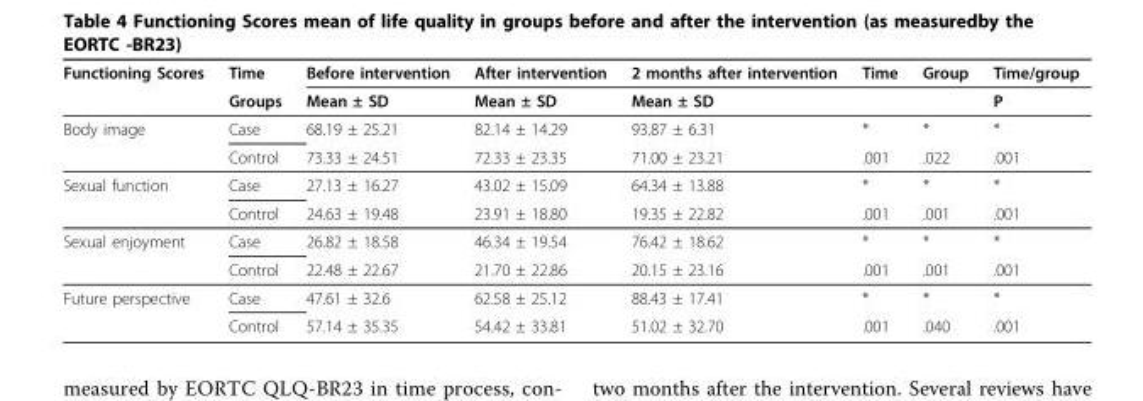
<table><thead><tr><td rowspan="2">Functioning Scores</td><td rowspan="2">Time Groups</td><td rowspan="2">Before intervention Mean ± SD</td><td rowspan="2">After intervention Mean ± SD</td><td rowspan="2">2 months after intervention Mean ± SD</td><td rowspan="2">Time</td><td rowspan="2">Group</td><td rowspan="2">Time/group P</td></tr><tr></tr></thead><tbody><tr><td rowspan="2">Body image</td><td>Case</td><td>68.19 ± 25.21</td><td>82.14 ± 14.29</td><td>93.87 ± 6.31</td><td>*</td><td>*</td><td>*</td></tr><tr><td>Control</td><td>73.33 ± 24.51</td><td>72.33 ± 23.35</td><td>71.00 ± 23.21</td><td>.001</td><td>.022</td><td>.001</td></tr><tr><td rowspan="2">Sexual function</td><td>Case</td><td>27.13 ± 16.27</td><td>43.02 ± 15.09</td><td>64.34 ± 13.88</td><td>*</td><td>*</td><td>*</td></tr><tr><td>Control</td><td>24.63 ± 19.48</td><td>23.91 ± 18.80</td><td>19.35 ± 22.82</td><td>.001</td><td>.001</td><td>.001</td></tr><tr><td rowspan="2">Sexual enjoyment</td><td>Case</td><td>26.82 ± 18.58</td><td>46.34 ± 19.54</td><td>76.42 ± 18.62</td><td>*</td><td>*</td><td>*</td></tr><tr><td>Control</td><td>22.48 ± 22.67</td><td>21.70 ± 22.86</td><td>20.15 ± 23.16</td><td>.001</td><td>.001</td><td>.001</td></tr><tr><td rowspan="2">Future perspective</td><td>Case</td><td>47.61 ± 32.6</td><td>62.58 ± 25.12</td><td>88.43 ± 17.41</td><td>*</td><td>*</td><td>*</td></tr><tr><td>Control</td><td>57.14 ± 35.35</td><td>54.42 ± 33.81</td><td>51.02 ± 32.70</td><td>.001</td><td>.040</td><td>.001</td></tr></tbody></table>